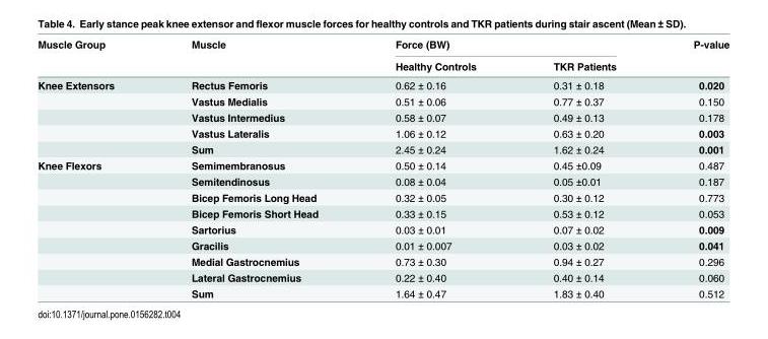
<table><thead><tr><td rowspan="2">Muscle Group</td><td rowspan="2">Muscle</td><td colspan="2">Force (BW)</td><td rowspan="2">P-value</td></tr><tr><td>Healthy Controls</td><td>TKR Patients</td></tr></thead><tbody><tr><td rowspan="5">Knee Extensors</td><td>Rectus Femoris</td><td>0.62 ± 0.16</td><td>0.31 ± 0.18</td><td>0.020</td></tr><tr><td>Vastus Medialis</td><td>0.51 ± 0.06</td><td>0.77 ± 0.37</td><td>0.150</td></tr><tr><td>Vastus Intermedius</td><td>0.58 ± 0.07</td><td>0.49 ± 0.13</td><td>0.178</td></tr><tr><td>Vastus Lateralis</td><td>1.06 ± 0.12</td><td>0.63 ± 0.20</td><td>0.003</td></tr><tr><td>Sum</td><td>2.45 ± 0.24</td><td>1.62 ± 0.24</td><td>0.001</td></tr><tr><td rowspan="9">Knee Flexors</td><td>Semimembranosus</td><td>0.50 ± 0.14</td><td>0.45 ±0.09</td><td>0.487</td></tr><tr><td>Semitendinosus</td><td>0.08 ± 0.04</td><td>0.05 ±0.01</td><td>0.187</td></tr><tr><td>Bicep Femoris Long Head</td><td>0.32 ± 0.05</td><td>0.30 ± 0.12</td><td>0.773</td></tr><tr><td>Bicep Femoris Short Head</td><td>0.33 ± 0.15</td><td>0.53 ± 0.12</td><td>0.053</td></tr><tr><td>Sartorius</td><td>0.03 ± 0.01</td><td>0.07 ± 0.02</td><td>0.009</td></tr><tr><td>Gracilis</td><td>0.01 ± 0.007</td><td>0.03 ± 0.02</td><td>0.041</td></tr><tr><td>Medial Gastrocnemius</td><td>0.73 ± 0.30</td><td>0.94 ± 0.27</td><td>0.296</td></tr><tr><td>Lateral Gastrocnemius</td><td>0.22 ± 0.40</td><td>0.40 ± 0.14</td><td>0.060</td></tr><tr><td>Sum</td><td>1.64 ± 0.47</td><td>1.83 ± 0.40</td><td>0.512</td></tr></tbody></table>